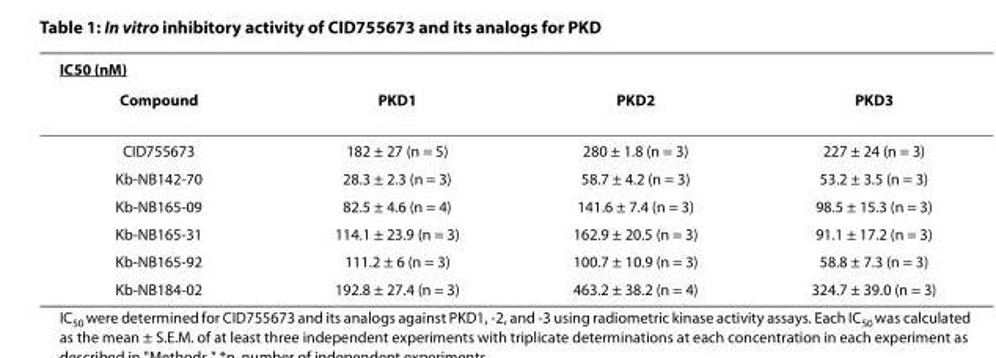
<table><thead><tr><td colspan="4">IC<sub>50</sub> (nM)</td></tr><tr><td>Compound</td><td>PKD1</td><td>PKD2</td><td>PKD3</td></tr></thead><tbody><tr><td>CID755673</td><td>182 ± 27 (n = 5)</td><td>280 ± 1.8 (n = 3)</td><td>227 ± 24 (n = 3)</td></tr><tr><td>Kb-NB142-70</td><td>28.3 ± 2.3 (n = 3)</td><td>58.7 ± 4.2 (n = 3)</td><td>53.2 ± 3.5 (n = 3)</td></tr><tr><td>Kb-NB165-09</td><td>82.5 ± 4.6 (n = 4)</td><td>141.6 ± 7.4 (n = 3)</td><td>98.5 ± 15.3 (n = 3)</td></tr><tr><td>Kb-NB165-31</td><td>114.1 ± 23.9 (n = 3)</td><td>162.9 ± 20.5 (n = 3)</td><td>91.1 ± 17.2 (n = 3)</td></tr><tr><td>Kb-NB165-92</td><td>111.2 ± 6 (n = 3)</td><td>100.7 ± 10.9 (n = 3)</td><td>58.8 ± 7.3 (n = 3)</td></tr><tr><td>Kb-NB184-02</td><td>192.8 ± 27.4 (n = 3)</td><td>463.2 ± 38.2 (n = 4)</td><td>324.7 ± 39.0 (n = 3)</td></tr></tbody></table>